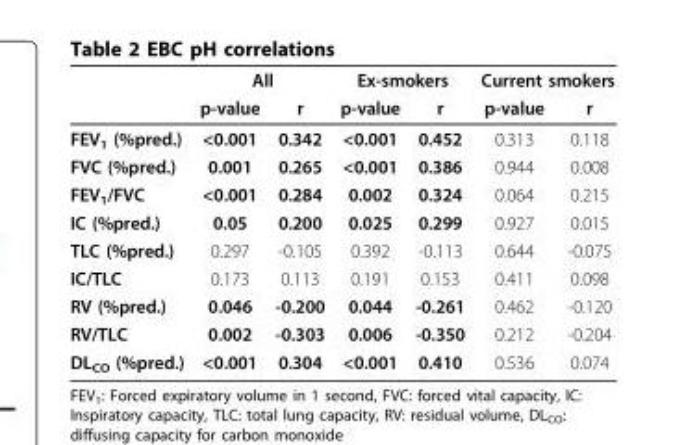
<table><thead><tr><td rowspan="2"></td><td colspan="2">All</td><td colspan="2">Ex-smokers</td><td colspan="2">Current smokers</td></tr><tr><td>p-value</td><td>r</td><td>p-value</td><td>r</td><td>p-value</td><td>r</td></tr></thead><tbody><tr><td>FEV<sub>1</sub> (%pred.)</td><td>&lt;0.001</td><td>0.342</td><td>&lt;0.001</td><td>0.452</td><td>0.313</td><td>0.118</td></tr><tr><td>FVC (%pred.)</td><td>0.001</td><td>0.265</td><td>&lt;0.001</td><td>0.386</td><td>0.944</td><td>0.008</td></tr><tr><td>FEV<sub>1</sub>/FVC</td><td>&lt;0.001</td><td>0.284</td><td>0.002</td><td>0.324</td><td>0.064</td><td>0.215</td></tr><tr><td>IC (%pred.)</td><td>0.05</td><td>0.200</td><td>0.025</td><td>0.299</td><td>0.927</td><td>0.015</td></tr><tr><td>TLC (%pred.)</td><td>0.297</td><td>-0.105</td><td>0.392</td><td>-0.113</td><td>0.644</td><td>-0.075</td></tr><tr><td>IC/TLC</td><td>0.173</td><td>0.113</td><td>0.191</td><td>0.153</td><td>0.411</td><td>0.098</td></tr><tr><td>RV (%pred.)</td><td>0.046</td><td>-0.200</td><td>0.044</td><td>-0.261</td><td>0.462</td><td>-0.120</td></tr><tr><td>RV/TLC</td><td>0.002</td><td>-0.303</td><td>0.006</td><td>-0.350</td><td>0.212</td><td>-0.204</td></tr><tr><td>DL<sub>CO</sub> (%pred.)</td><td>&lt;0.001</td><td>0.304</td><td>&lt;0.001</td><td>0.410</td><td>0.536</td><td>0.074</td></tr></tbody></table>